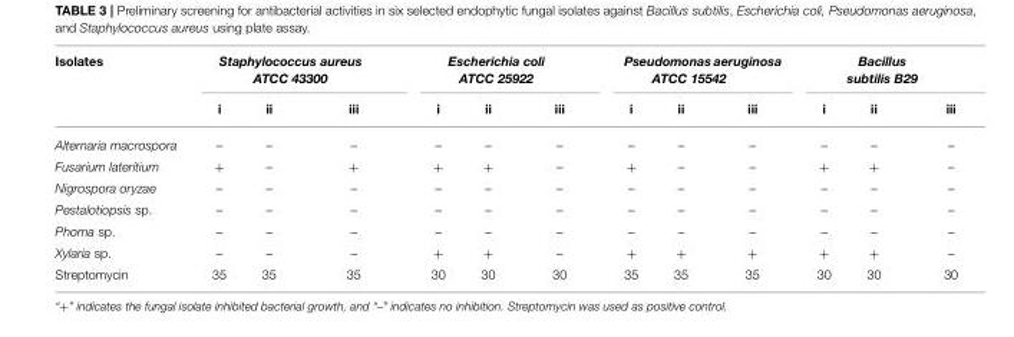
<table><thead><tr><td rowspan="2">Isolates</td><td colspan="3">Staphylococcus aureus ATCC 43300</td><td colspan="3">Escherichia coli ATCC 25922</td><td colspan="3">Pseudomonas aeruginosa ATCC 15542</td><td colspan="3">Bacillus subtilis B29</td></tr><tr><td>i</td><td>ii</td><td>iii</td><td>i</td><td>ii</td><td>iii</td><td>i</td><td>ii</td><td>iii</td><td>i</td><td>ii</td><td>iii</td></tr></thead><tbody><tr><td>Alternaria macrospora</td><td>–</td><td>–</td><td>–</td><td>–</td><td>–</td><td>–</td><td>–</td><td>–</td><td>–</td><td>–</td><td>–</td><td>–</td></tr><tr><td>Fusarium lateritium</td><td>+</td><td>–</td><td>+</td><td>+</td><td>+</td><td>–</td><td>+</td><td>–</td><td>–</td><td>+</td><td>+</td><td>–</td></tr><tr><td>Nigrospora oryzae</td><td>–</td><td>–</td><td>–</td><td>–</td><td>–</td><td>–</td><td>–</td><td>–</td><td>–</td><td>–</td><td>–</td><td>–</td></tr><tr><td>Pestalotiopsis sp.</td><td>–</td><td>–</td><td>–</td><td>–</td><td>–</td><td>–</td><td>–</td><td>–</td><td>–</td><td>–</td><td>–</td><td>–</td></tr><tr><td>Phoma sp.</td><td>–</td><td>–</td><td>–</td><td>–</td><td>–</td><td>–</td><td>–</td><td>–</td><td>–</td><td>–</td><td>–</td><td>–</td></tr><tr><td>Xylaria sp.</td><td>–</td><td>–</td><td>–</td><td>+</td><td>+</td><td>–</td><td>+</td><td>+</td><td>+</td><td>+</td><td>+</td><td>–</td></tr><tr><td>Streptomycin</td><td>35</td><td>35</td><td>35</td><td>30</td><td>30</td><td>30</td><td>35</td><td>35</td><td>35</td><td>30</td><td>30</td><td>30</td></tr></tbody></table>